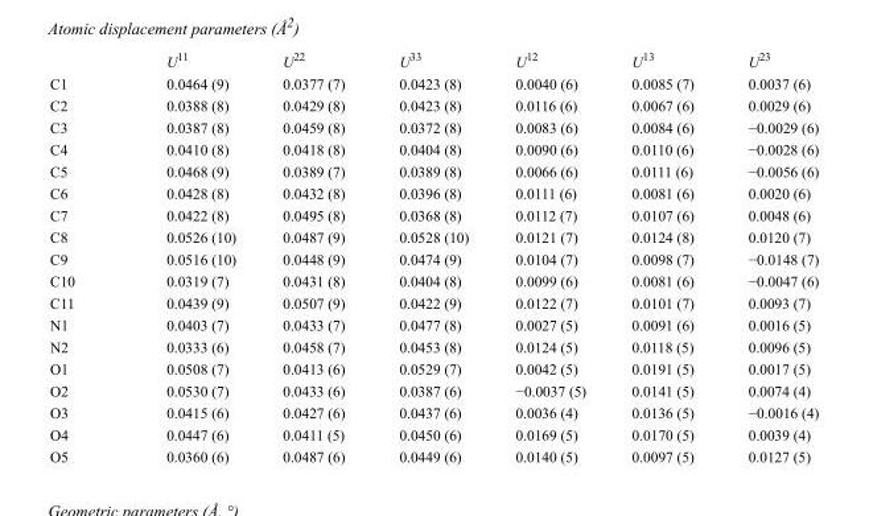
<table><thead><tr><td></td><td>U<sup>11</sup></td><td>U<sup>22</sup></td><td>U<sup>33</sup></td><td>U<sup>12</sup></td><td>U<sup>13</sup></td><td>U<sup>23</sup></td></tr></thead><tbody><tr><td>C1</td><td>0.0464 (9)</td><td>0.0377 (7)</td><td>0.0423 (8)</td><td>0.0040 (6)</td><td>0.0085 (7)</td><td>0.0037 (6)</td></tr><tr><td>C2</td><td>0.0388 (8)</td><td>0.0429 (8)</td><td>0.0423 (8)</td><td>0.0116 (6)</td><td>0.0067 (6)</td><td>0.0029 (6)</td></tr><tr><td>C3</td><td>0.0387 (8)</td><td>0.0459 (8)</td><td>0.0372 (8)</td><td>0.0083 (6)</td><td>0.0084 (6)</td><td>−0.0029 (6)</td></tr><tr><td>C4</td><td>0.0410 (8)</td><td>0.0418 (8)</td><td>0.0404 (8)</td><td>0.0090 (6)</td><td>0.0110 (6)</td><td>−0.0028 (6)</td></tr><tr><td>C5</td><td>0.0468 (9)</td><td>0.0389 (7)</td><td>0.0389 (8)</td><td>0.0066 (6)</td><td>0.0111 (6)</td><td>−0.0056 (6)</td></tr><tr><td>C6</td><td>0.0428 (8)</td><td>0.0432 (8)</td><td>0.0396 (8)</td><td>0.0111 (6)</td><td>0.0081 (6)</td><td>0.0020 (6)</td></tr><tr><td>C7</td><td>0.0422 (8)</td><td>0.0495 (8)</td><td>0.0368 (8)</td><td>0.0112 (7)</td><td>0.0107 (6)</td><td>0.0048 (6)</td></tr><tr><td>C8</td><td>0.0526 (10)</td><td>0.0487 (9)</td><td>0.0528 (10)</td><td>0.0121 (7)</td><td>0.0124 (8)</td><td>0.0120 (7)</td></tr><tr><td>C9</td><td>0.0516 (10)</td><td>0.0448 (9)</td><td>0.0474 (9)</td><td>0.0104 (7)</td><td>0.0098 (7)</td><td>−0.0148 (7)</td></tr><tr><td>C10</td><td>0.0319 (7)</td><td>0.0431 (8)</td><td>0.0404 (8)</td><td>0.0099 (6)</td><td>0.0081 (6)</td><td>−0.0047 (6)</td></tr><tr><td>C11</td><td>0.0439 (9)</td><td>0.0507 (9)</td><td>0.0422 (9)</td><td>0.0122 (7)</td><td>0.0101 (7)</td><td>0.0093 (7)</td></tr><tr><td>N1</td><td>0.0403 (7)</td><td>0.0433 (7)</td><td>0.0477 (8)</td><td>0.0027 (5)</td><td>0.0091 (6)</td><td>0.0016 (5)</td></tr><tr><td>N2</td><td>0.0333 (6)</td><td>0.0458 (7)</td><td>0.0453 (8)</td><td>0.0124 (5)</td><td>0.0118 (5)</td><td>0.0096 (5)</td></tr><tr><td>O1</td><td>0.0508 (7)</td><td>0.0413 (6)</td><td>0.0529 (7)</td><td>0.0042 (5)</td><td>0.0191 (5)</td><td>0.0017 (5)</td></tr><tr><td>O2</td><td>0.0530 (7)</td><td>0.0433 (6)</td><td>0.0387 (6)</td><td>−0.0037 (5)</td><td>0.0141 (5)</td><td>0.0074 (4)</td></tr><tr><td>O3</td><td>0.0415 (6)</td><td>0.0427 (6)</td><td>0.0437 (6)</td><td>0.0036 (4)</td><td>0.0136 (5)</td><td>−0.0016 (4)</td></tr><tr><td>O4</td><td>0.0447 (6)</td><td>0.0411 (5)</td><td>0.0450 (6)</td><td>0.0169 (5)</td><td>0.0170 (5)</td><td>0.0039 (4)</td></tr><tr><td>O5</td><td>0.0360 (6)</td><td>0.0487 (6)</td><td>0.0449 (6)</td><td>0.0140 (5)</td><td>0.0097 (5)</td><td>0.0127 (5)</td></tr></tbody></table>